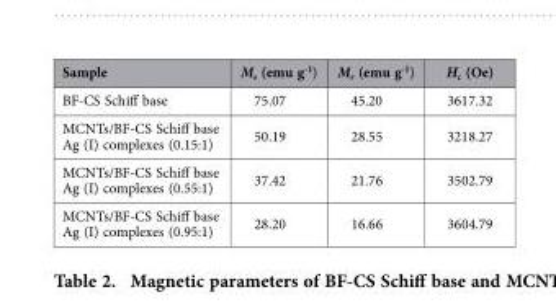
<table><thead><tr><td>Sample</td><td>M<sub>s</sub> (emu g<sup>-1</sup>)</td><td>M<sub>r</sub> (emu g<sup>-1</sup>)</td><td>H<sub>c</sub> (Oe)</td></tr></thead><tbody><tr><td>BF-CS Schiff base</td><td>75.07</td><td>45.20</td><td>3617.32</td></tr><tr><td>MCNTs/BF-CS Schiff base Ag (I) complexes (0.15:1)</td><td>50.19</td><td>28.55</td><td>3218.27</td></tr><tr><td>MCNTs/BF-CS Schiff base Ag (I) complexes (0.55:1)</td><td>37.42</td><td>21.76</td><td>3502.79</td></tr><tr><td>MCNTs/BF-CS Schiff base Ag (I) complexes (0.95:1)</td><td>28.20</td><td>16.66</td><td>3604.79</td></tr></tbody></table>